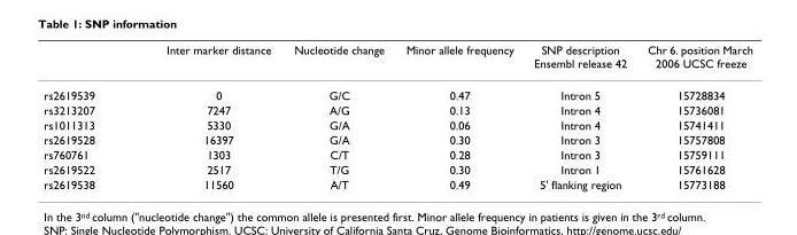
<table><thead><tr><td></td><td>Inter marker distance</td><td>Nucleotide change</td><td>Minor allele frequency</td><td>SNP description Ensembl release 42</td><td>Chr 6. position March 2006 UCSC freeze</td></tr></thead><tbody><tr><td>rs2619539</td><td>0</td><td>G/C</td><td>0.47</td><td>Intron 5</td><td>15728834</td></tr><tr><td>rs3213207</td><td>7247</td><td>A/G</td><td>0.13</td><td>Intron 4</td><td>15736081</td></tr><tr><td>rs1011313</td><td>5330</td><td>G/A</td><td>0.06</td><td>Intron 4</td><td>15741411</td></tr><tr><td>rs2619528</td><td>16397</td><td>G/A</td><td>0.30</td><td>Intron 3</td><td>15757808</td></tr><tr><td>rs760761</td><td>1303</td><td>C/T</td><td>0.28</td><td>Intron 3</td><td>15759111</td></tr><tr><td>rs2619522</td><td>2517</td><td>T/G</td><td>0.30</td><td>Intron 1</td><td>15761628</td></tr><tr><td>rs2619538</td><td>11560</td><td>A/T</td><td>0.49</td><td>5&#x27; flanking region</td><td>15773188</td></tr></tbody></table>